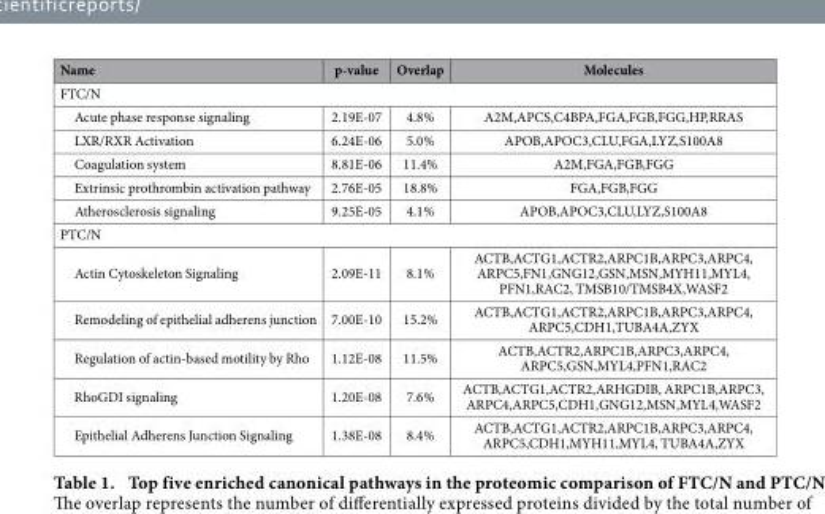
<table><thead><tr><td>Name</td><td>p-value</td><td>Overlap</td><td>Molecules</td></tr></thead><tbody><tr><td colspan="4">FTC/N</td></tr><tr><td>Acute phase response signaling</td><td>2.19E-07</td><td>4.8%</td><td>A2M,APCS,C4BPA,FGA,FGB,FGG,HP,RRAS</td></tr><tr><td>LXR/RXR Activation</td><td>6.24E-06</td><td>5.0%</td><td>APOB,APOC3,CLU,FGA,LYZ,S100A8</td></tr><tr><td>Coagulation system</td><td>8.81E-06</td><td>11.4%</td><td>A2M,FGA,FGB,FGG</td></tr><tr><td>Extrinsic prothrombin activation pathway</td><td>2.76E-05</td><td>18.8%</td><td>FGA,FGB,FGG</td></tr><tr><td>Atherosclerosis signaling</td><td>9.25E-05</td><td>4.1%</td><td>APOB,APOC3,CLU,LYZ,S100A8</td></tr><tr><td colspan="4">PTC/N</td></tr><tr><td>Actin Cytoskeleton Signaling</td><td>2.09E-11</td><td>8.1%</td><td>ACTB,ACTG1,ACTR2,ARPC1B,ARPC3,ARPC4, ARPC5,FN1,GNG12,GSN,MSN,MYH11,MYL4, PFN1,RAC2, TMSB10/TMSB4X,WASF2</td></tr><tr><td>Remodeling of epithelial adherens junction</td><td>7.00E-10</td><td>15.2%</td><td>ACTB,ACTG1,ACTR2,ARPC1B,ARPC3,ARPC4, ARPC5,CDH1,TUBA4A,ZYX</td></tr><tr><td>Regulation of actin-based motility by Rho</td><td>1.12E-08</td><td>11.5%</td><td>ACTB,ACTR2,ARPC1B,ARPC3,ARPC4, ARPC5,GSN,MYL4,PFN1,RAC2</td></tr><tr><td>RhoGDI signaling</td><td>1.20E-08</td><td>7.6%</td><td>ACTB,ACTG1,ACTR2,ARHGDIB, ARPC1B,ARPC3, ARPC4,ARPC5,CDH1,GNG12,MSN,MYL4,WASF2</td></tr><tr><td>Epithelial Adherens Junction Signaling</td><td>1.38E-08</td><td>8.4%</td><td>ACTB,ACTG1,ACTR2,ARPC1B,ARPC3,ARPC4, ARPC5,CDH1,MYH11,MYL4, TUBA4A,ZYX</td></tr></tbody></table>